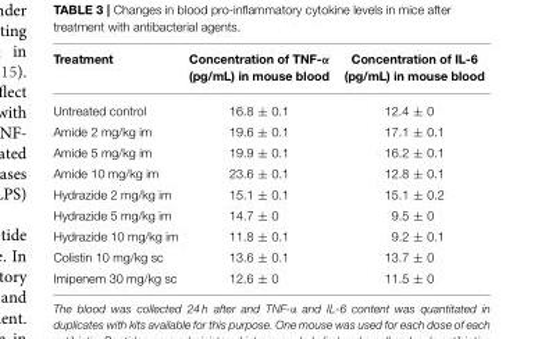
<table><thead><tr><td>Treatment</td><td>Concentration of TNF-α (pg/mL) in mouse blood</td><td>Concentration of IL-6 (pg/mL) in mouse blood</td></tr></thead><tbody><tr><td>Untreated control</td><td>16.8 ± 0.1</td><td>12.4 ± 0</td></tr><tr><td>Amide 2 mg/kg im</td><td>19.6 ± 0.1</td><td>17.1 ± 0.1</td></tr><tr><td>Amide 5 mg/kg im</td><td>19.9 ± 0.1</td><td>16.2 ± 0.1</td></tr><tr><td>Amide 10 mg/kg im</td><td>23.6 ± 0.1</td><td>12.8 ± 0.1</td></tr><tr><td>Hydrazide 2 mg/kg im</td><td>15.1 ± 0.1</td><td>15.1 ± 0.2</td></tr><tr><td>Hydrazide 5 mg/kg im</td><td>14.7 ± 0</td><td>9.5 ± 0</td></tr><tr><td>Hydrazide 10 mg/kg im</td><td>11.8 ± 0.1</td><td>9.2 ± 0.1</td></tr><tr><td>Colistin 10 mg/kg sc</td><td>13.6 ± 0.1</td><td>13.7 ± 0</td></tr><tr><td>Imipenem 30 mg/kg sc</td><td>12.6 ± 0</td><td>11.5 ± 0</td></tr></tbody></table>